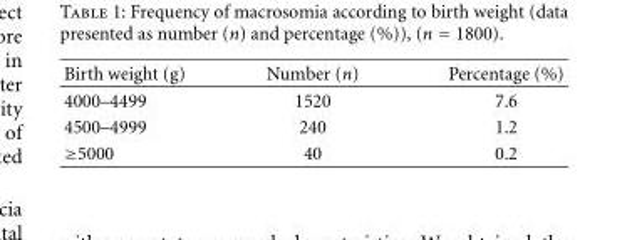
<table><thead><tr><td>Birth weight (g)</td><td>Number (n)</td><td>Percentage (%)</td></tr></thead><tbody><tr><td>4000–4499</td><td>1520</td><td>7.6</td></tr><tr><td>4500–4999</td><td>240</td><td>1.2</td></tr><tr><td>≥5000</td><td>40</td><td>0.2</td></tr></tbody></table>